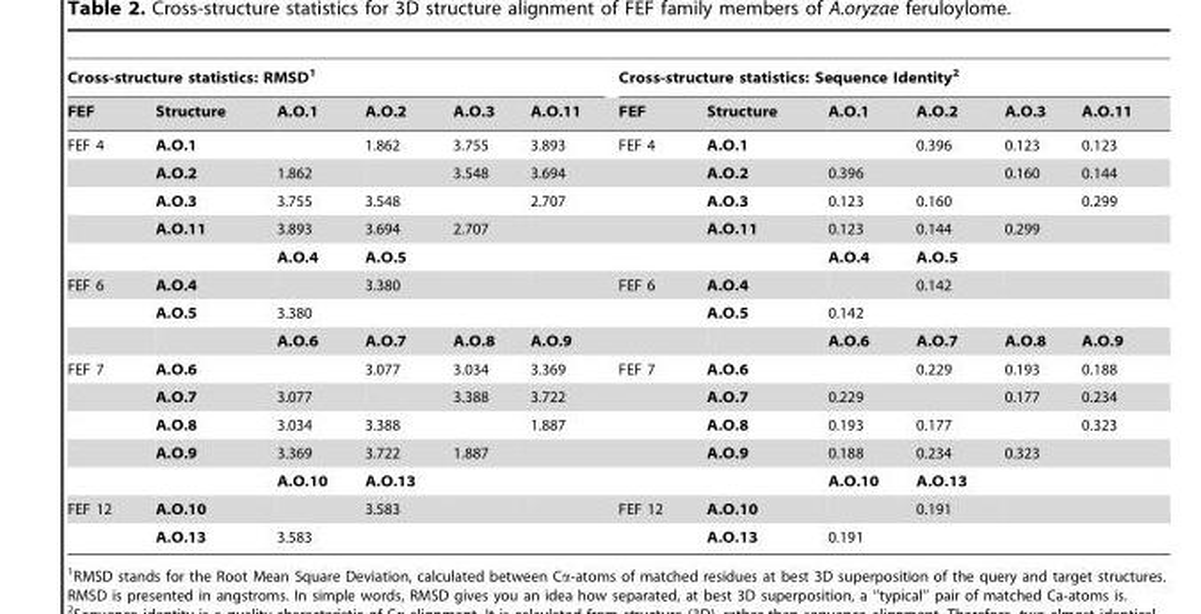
<table><thead><tr><td colspan="6">Cross-structure statistics: RMSD<sup>1</sup></td><td colspan="6">Cross-structure statistics: Sequence Identity<sup>2</sup></td></tr><tr><td>FEF</td><td>Structure</td><td>A.O.1</td><td>A.O.2</td><td>A.O.3</td><td>A.O.11</td><td>FEF</td><td>Structure</td><td>A.O.1</td><td>A.O.2</td><td>A.O.3</td><td>A.O.11</td></tr></thead><tbody><tr><td rowspan="5">FEF 4</td><td>A.O.1</td><td></td><td>1.862</td><td>3.755</td><td>3.893</td><td>FEF 4</td><td>A.O.1</td><td></td><td>0.396</td><td>0.123</td><td>0.123</td></tr><tr><td>A.O.2</td><td>1.862</td><td></td><td>3.548</td><td>3.694</td><td></td><td>A.O.2</td><td>0.396</td><td></td><td>0.160</td><td>0.144</td></tr><tr><td>A.O.3</td><td>3.755</td><td>3.548</td><td></td><td>2.707</td><td></td><td>A.O.3</td><td>0.123</td><td>0.160</td><td></td><td>0.299</td></tr><tr><td>A.O.11</td><td>3.893</td><td>3.694</td><td>2.707</td><td></td><td></td><td>A.O.11</td><td>0.123</td><td>0.144</td><td>0.299</td><td></td></tr><tr><td></td><td>A.O.4</td><td>A.O.5</td><td></td><td></td><td></td><td></td><td>A.O.4</td><td>A.O.5</td><td></td><td></td></tr><tr><td rowspan="3">FEF 6</td><td>A.O.4</td><td></td><td>3.380</td><td></td><td></td><td>FEF 6</td><td>A.O.4</td><td></td><td>0.142</td><td></td><td></td></tr><tr><td>A.O.5</td><td>3.380</td><td></td><td></td><td></td><td></td><td>A.O.5</td><td>0.142</td><td></td><td></td><td></td></tr><tr><td></td><td>A.O.6</td><td>A.O.7</td><td>A.O.8</td><td>A.O.9</td><td></td><td></td><td>A.O.6</td><td>A.O.7</td><td>A.O.8</td><td>A.O.9</td></tr><tr><td rowspan="5">FEF 7</td><td>A.O.6</td><td></td><td>3.077</td><td>3.034</td><td>3.369</td><td>FEF 7</td><td>A.O.6</td><td></td><td>0.229</td><td>0.193</td><td>0.188</td></tr><tr><td>A.O.7</td><td>3.077</td><td></td><td>3.388</td><td>3.722</td><td></td><td>A.O.7</td><td>0.229</td><td></td><td>0.177</td><td>0.234</td></tr><tr><td>A.O.8</td><td>3.034</td><td>3.388</td><td></td><td>1.887</td><td></td><td>A.O.8</td><td>0.193</td><td>0.177</td><td></td><td>0.323</td></tr><tr><td>A.O.9</td><td>3.369</td><td>3.722</td><td>1.887</td><td></td><td></td><td>A.O.9</td><td>0.188</td><td>0.234</td><td>0.323</td><td></td></tr><tr><td></td><td>A.O.10</td><td>A.O.13</td><td></td><td></td><td></td><td></td><td>A.O.10</td><td>A.O.13</td><td></td><td></td></tr><tr><td rowspan="2">FEF 12</td><td>A.O.10</td><td></td><td>3.583</td><td></td><td></td><td>FEF 12</td><td>A.O.10</td><td></td><td>0.191</td><td></td><td></td></tr><tr><td>A.O.13</td><td>3.583</td><td></td><td></td><td></td><td></td><td>A.O.13</td><td>0.191</td><td></td><td></td><td></td></tr></tbody></table>